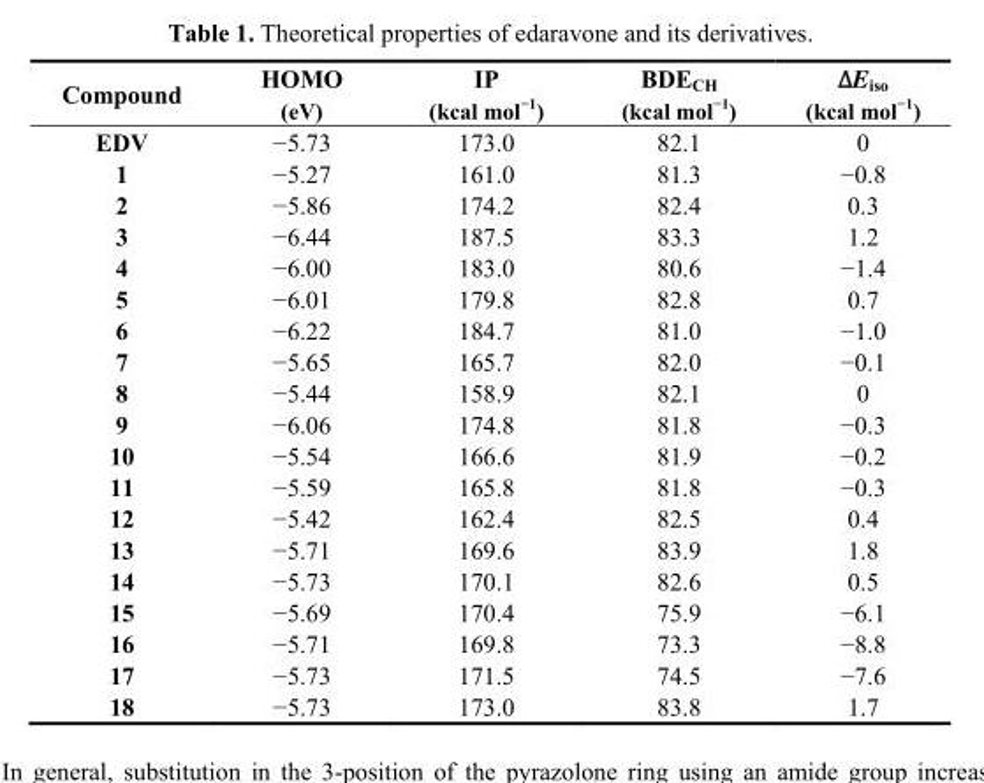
<table><thead><tr><td>Compound</td><td>HOMO (eV)</td><td>IP (kcal mol<sup>−1</sup>)</td><td>BDE<sub>CH</sub> (kcal mol<sup>−1</sup>)</td><td>∆Eiso (kcal mol−1)</td></tr></thead><tbody><tr><td>EDV</td><td>−5.73</td><td>173.0</td><td>82.1</td><td>0</td></tr><tr><td>1</td><td>−5.27</td><td>161.0</td><td>81.3</td><td>−0.8</td></tr><tr><td>2</td><td>−5.86</td><td>174.2</td><td>82.4</td><td>0.3</td></tr><tr><td>3</td><td>−6.44</td><td>187.5</td><td>83.3</td><td>1.2</td></tr><tr><td>4</td><td>−6.00</td><td>183.0</td><td>80.6</td><td>−1.4</td></tr><tr><td>5</td><td>−6.01</td><td>179.8</td><td>82.8</td><td>0.7</td></tr><tr><td>6</td><td>−6.22</td><td>184.7</td><td>81.0</td><td>−1.0</td></tr><tr><td>7</td><td>−5.65</td><td>165.7</td><td>82.0</td><td>−0.1</td></tr><tr><td>8</td><td>−5.44</td><td>158.9</td><td>82.1</td><td>0</td></tr><tr><td>9</td><td>−6.06</td><td>174.8</td><td>81.8</td><td>−0.3</td></tr><tr><td>10</td><td>−5.54</td><td>166.6</td><td>81.9</td><td>−0.2</td></tr><tr><td>11</td><td>−5.59</td><td>165.8</td><td>81.8</td><td>−0.3</td></tr><tr><td>12</td><td>−5.42</td><td>162.4</td><td>82.5</td><td>0.4</td></tr><tr><td>13</td><td>−5.71</td><td>169.6</td><td>83.9</td><td>1.8</td></tr><tr><td>14</td><td>−5.73</td><td>170.1</td><td>82.6</td><td>0.5</td></tr><tr><td>15</td><td>−5.69</td><td>170.4</td><td>75.9</td><td>−6.1</td></tr><tr><td>16</td><td>−5.71</td><td>169.8</td><td>73.3</td><td>−8.8</td></tr><tr><td>17</td><td>−5.73</td><td>171.5</td><td>74.5</td><td>−7.6</td></tr><tr><td>18</td><td>−5.73</td><td>173.0</td><td>83.8</td><td>1.7</td></tr></tbody></table>